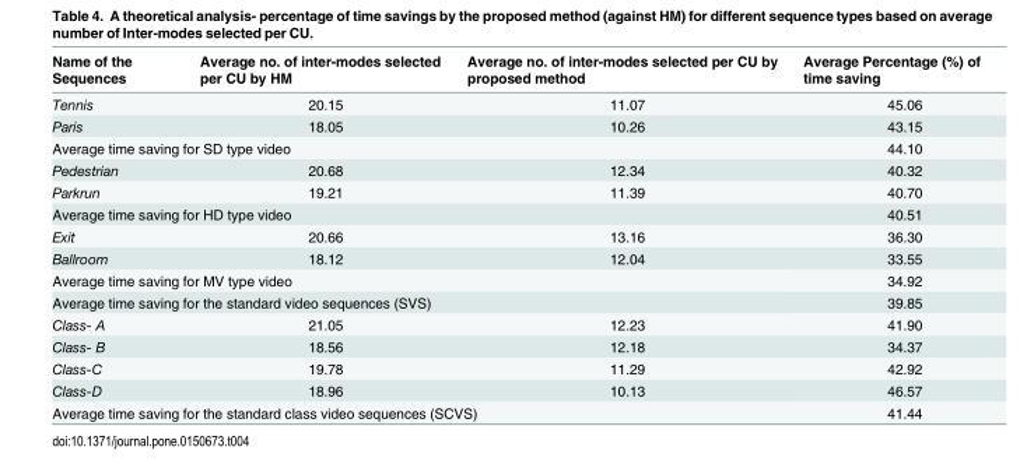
<table><thead><tr><td>Name of the Sequences</td><td>Average no. of inter-modes selected per CU by HM</td><td>Average no. of inter-modes selected per CU by proposed method</td><td>Average Percentage (%) of time saving</td></tr></thead><tbody><tr><td>Tennis</td><td>20.15</td><td>11.07</td><td>45.06</td></tr><tr><td>Paris</td><td>18.05</td><td>10.26</td><td>43.15</td></tr><tr><td colspan="3">Average time saving for SD type video</td><td>44.10</td></tr><tr><td>Pedestrian</td><td>20.68</td><td>12.34</td><td>40.32</td></tr><tr><td>Parkrun</td><td>19.21</td><td>11.39</td><td>40.70</td></tr><tr><td colspan="3">Average time saving for HD type video</td><td>40.51</td></tr><tr><td>Exit</td><td>20.66</td><td>13.16</td><td>36.30</td></tr><tr><td>Ballroom</td><td>18.12</td><td>12.04</td><td>33.55</td></tr><tr><td colspan="3">Average time saving for MV type video</td><td>34.92</td></tr><tr><td colspan="3">Average time saving for the standard video sequences (SVS)</td><td>39.85</td></tr><tr><td>Class- A</td><td>21.05</td><td>12.23</td><td>41.90</td></tr><tr><td>Class- B</td><td>18.56</td><td>12.18</td><td>34.37</td></tr><tr><td>Class-C</td><td>19.78</td><td>11.29</td><td>42.92</td></tr><tr><td>Class-D</td><td>18.96</td><td>10.13</td><td>46.57</td></tr><tr><td colspan="3">Average time saving for the standard class video sequences (SCVS)</td><td>41.44</td></tr></tbody></table>